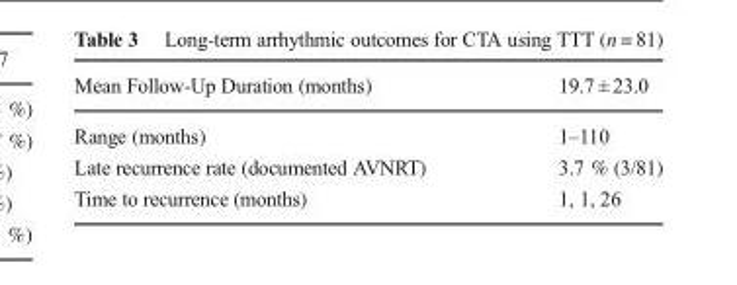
<table><thead><tr><td>Mean Follow-Up Duration (months)</td><td>19.7 ± 23.0</td></tr></thead><tbody><tr><td>Range (months)</td><td>1–110</td></tr><tr><td>Late recurrence rate (documented AVNRT)</td><td>3.7 % (3/81)</td></tr><tr><td>Time to recurrence (months)</td><td>1, 1, 26</td></tr></tbody></table>